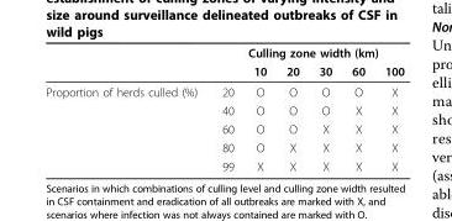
<table><thead><tr><td rowspan="2"></td><td colspan="6">Culling zone width (km)</td></tr><tr><td></td><td>10</td><td>20</td><td>30</td><td>60</td><td>100</td></tr></thead><tbody><tr><td rowspan="5">Proportion of herds culled (%)</td><td>20</td><td>O</td><td>O</td><td>O</td><td>O</td><td>X</td></tr><tr><td>40</td><td>O</td><td>O</td><td>O</td><td>X</td><td>X</td></tr><tr><td>60</td><td>O</td><td>O</td><td>X</td><td>X</td><td>X</td></tr><tr><td>80</td><td>O</td><td>X</td><td>X</td><td>X</td><td>X</td></tr><tr><td>99</td><td>X</td><td>X</td><td>X</td><td>X</td><td>X</td></tr></tbody></table>